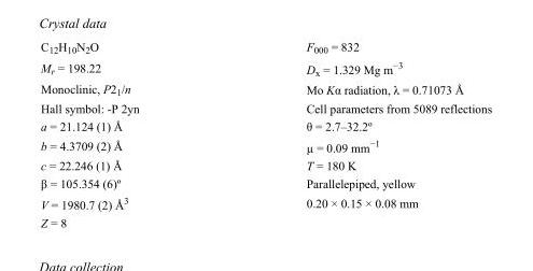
<table><tbody><tr><td>C<sub>12</sub>H<sub>10</sub>N<sub>2</sub>O</td><td>F000 = 832</td></tr><tr><td>M<sub>r</sub> = 198.22</td><td>D<sub>x</sub> = 1.329 Mg m<sup>−3</sup></td></tr><tr><td>Monoclinic, P2<sub>1</sub>/n</td><td>Mo Kα radiation, λ = 0.71073 Å</td></tr><tr><td>Hall symbol: -P 2yn</td><td>Cell parameters from 5089 reflections</td></tr><tr><td>a = 21.124 (1) Å</td><td>θ = 2.7–32.2º</td></tr><tr><td>b = 4.3709 (2) Å</td><td>µ = 0.09 mm<sup>−1</sup></td></tr><tr><td>c = 22.246 (1) Å</td><td>T = 180 K</td></tr><tr><td>β = 105.354 (6)º</td><td>Parallelepiped, yellow</td></tr><tr><td>V = 1980.7 (2) Å<sup>3</sup></td><td>0.20 × 0.15 × 0.08 mm</td></tr><tr><td>Z = 8</td><td></td></tr></tbody></table>